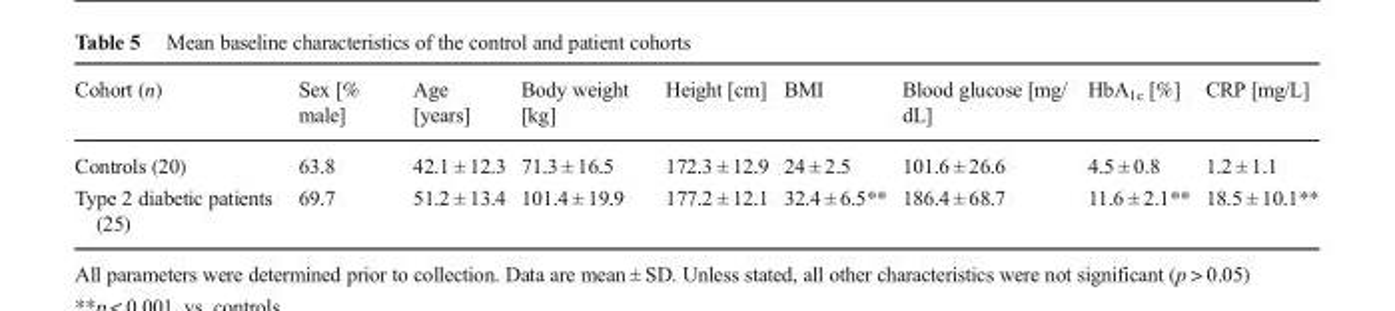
<table><thead><tr><td>Cohort (n)</td><td>Sex [% male]</td><td>Age [years]</td><td>Body weight [kg]</td><td>Height [cm]</td><td>BMI</td><td>Blood glucose [mg/ dL]</td><td>HbA<sub>1c</sub> [%]</td><td>CRP [mg/L]</td></tr></thead><tbody><tr><td>Controls (20)</td><td>63.8</td><td>42.1 ± 12.3</td><td>71.3 ± 16.5</td><td>172.3 ± 12.9</td><td>24 ± 2.5</td><td>101.6 ± 26.6</td><td>4.5 ± 0.8</td><td>1.2 ± 1.1</td></tr><tr><td>Type 2 diabetic patients (25)</td><td>69.7</td><td>51.2 ± 13.4</td><td>101.4 ± 19.9</td><td>177.2 ± 12.1</td><td>32.4 ± 6.5**</td><td>186.4 ± 68.7</td><td>11.6 ± 2.1**</td><td>18.5 ± 10.1**</td></tr></tbody></table>